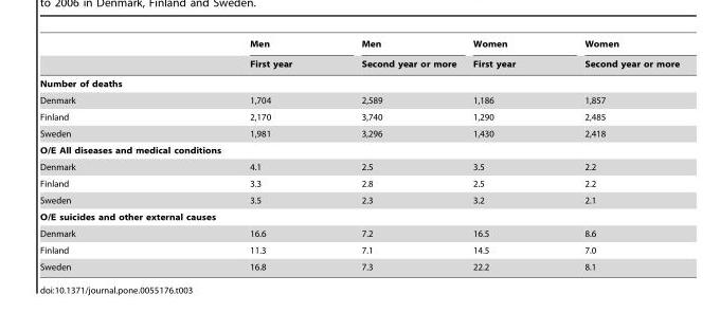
<table><thead><tr><td rowspan="2"></td><td rowspan="2">Men First year</td><td rowspan="2">Men Second year or more</td><td rowspan="2">Women First year</td><td rowspan="2">Women Second year or more</td></tr><tr></tr></thead><tbody><tr><td colspan="5">Number of deaths</td></tr><tr><td>Denmark</td><td>1,704</td><td>2,589</td><td>1,186</td><td>1,857</td></tr><tr><td>Finland</td><td>2,170</td><td>3,740</td><td>1,290</td><td>2,485</td></tr><tr><td>Sweden</td><td>1,981</td><td>3,296</td><td>1,430</td><td>2,418</td></tr><tr><td colspan="5">O/E All diseases and medical conditions</td></tr><tr><td>Denmark</td><td>4.1</td><td>2.5</td><td>3.5</td><td>2.2</td></tr><tr><td>Finland</td><td>3.3</td><td>2.8</td><td>2.5</td><td>2.2</td></tr><tr><td>Sweden</td><td>3.5</td><td>2.3</td><td>3.2</td><td>2.1</td></tr><tr><td colspan="5">O/E suicides and other external causes</td></tr><tr><td>Denmark</td><td>16.6</td><td>7.2</td><td>16.5</td><td>8.6</td></tr><tr><td>Finland</td><td>11.3</td><td>7.1</td><td>14.5</td><td>7.0</td></tr><tr><td>Sweden</td><td>16.8</td><td>7.3</td><td>22.2</td><td>8.1</td></tr></tbody></table>